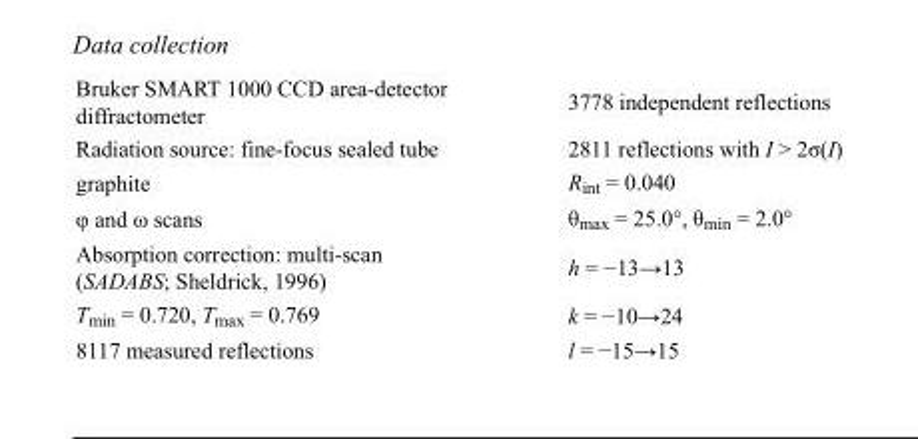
<table><tbody><tr><td>Bruker SMART 1000 CCD area-detector diffractometer</td><td>3778 independent reflections</td></tr><tr><td>Radiation source: fine-focus sealed tube</td><td>2811 reflections with I &gt; 2σ(I)</td></tr><tr><td>graphite</td><td>R<sub>int</sub> = 0.040</td></tr><tr><td>φ and ω scans</td><td>θ<sub>max</sub> = 25.0°, θ<sub>min</sub> = 2.0°</td></tr><tr><td>Absorption correction: multi-scan (SADABS; Sheldrick, 1996)</td><td>h = −13→13</td></tr><tr><td>T<sub>min</sub> = 0.720, T<sub>max</sub> = 0.769</td><td>k = −10→24</td></tr><tr><td>8117 measured reflections</td><td>l = −15→15</td></tr></tbody></table>